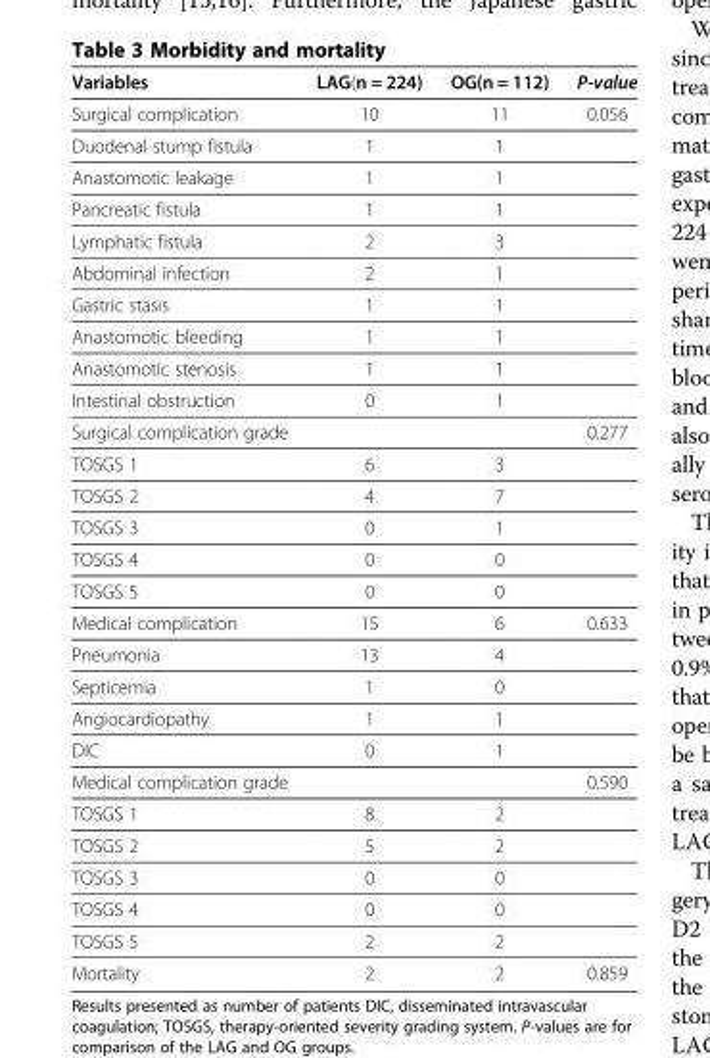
<table><thead><tr><td>Variables</td><td>LAG(n = 224)</td><td>OG(n = 112)</td><td>P-value</td></tr></thead><tbody><tr><td>Surgical complication</td><td>10</td><td>11</td><td>0.056</td></tr><tr><td>Duodenal stump fistula</td><td>1</td><td>1</td><td></td></tr><tr><td>Anastomotic leakage</td><td>1</td><td>1</td><td></td></tr><tr><td>Pancreatic fistula</td><td>1</td><td>1</td><td></td></tr><tr><td>Lymphatic fistula</td><td>2</td><td>3</td><td></td></tr><tr><td>Abdominal infection</td><td>2</td><td>1</td><td></td></tr><tr><td>Gastric stasis</td><td>1</td><td>1</td><td></td></tr><tr><td>Anastomotic bleeding</td><td>1</td><td>1</td><td></td></tr><tr><td>Anastomotic stenosis</td><td>1</td><td>1</td><td></td></tr><tr><td>Intestinal obstruction</td><td>0</td><td>1</td><td></td></tr><tr><td>Surgical complication grade</td><td></td><td></td><td>0.277</td></tr><tr><td>TOSGS 1</td><td>6</td><td>3</td><td></td></tr><tr><td>TOSGS 2</td><td>4</td><td>7</td><td></td></tr><tr><td>TOSGS 3</td><td>0</td><td>1</td><td></td></tr><tr><td>TOSGS 4</td><td>0</td><td>0</td><td></td></tr><tr><td>TOSGS 5</td><td>0</td><td>0</td><td></td></tr><tr><td>Medical complication</td><td>15</td><td>6</td><td>0.633</td></tr><tr><td>Pneumonia</td><td>13</td><td>4</td><td></td></tr><tr><td>Septicemia</td><td>1</td><td>0</td><td></td></tr><tr><td>Angiocardiopathy</td><td>1</td><td>1</td><td></td></tr><tr><td>DIC</td><td>0</td><td>1</td><td></td></tr><tr><td>Medical complication grade</td><td></td><td></td><td>0.590</td></tr><tr><td>TOSGS 1</td><td>8</td><td>2</td><td></td></tr><tr><td>TOSGS 2</td><td>5</td><td>2</td><td></td></tr><tr><td>TOSGS 3</td><td>0</td><td>0</td><td></td></tr><tr><td>TOSGS 4</td><td>0</td><td>0</td><td></td></tr><tr><td>TOSGS 5</td><td>2</td><td>2</td><td></td></tr><tr><td>Mortality</td><td>2</td><td>2</td><td>0.859</td></tr></tbody></table>